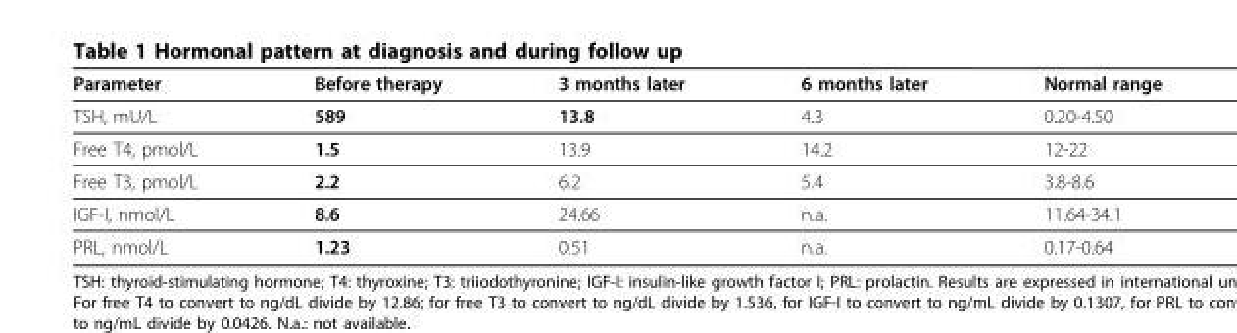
<table><thead><tr><td>Parameter</td><td>Before therapy</td><td>3 months later</td><td>6 months later</td><td>Normal range</td></tr></thead><tbody><tr><td>TSH, mU/L</td><td>589</td><td>13.8</td><td>4.3</td><td>0.20-4.50</td></tr><tr><td>Free T4, pmol/L</td><td>1.5</td><td>13.9</td><td>14.2</td><td>12-22</td></tr><tr><td>Free T3, pmol/L</td><td>2.2</td><td>6.2</td><td>5.4</td><td>3.8-8.6</td></tr><tr><td>IGF-I, nmol/L</td><td>8.6</td><td>24.66</td><td>n.a.</td><td>11.64-34.1</td></tr><tr><td>PRL, nmol/L</td><td>1.23</td><td>0.51</td><td>n.a.</td><td>0.17-0.64</td></tr></tbody></table>